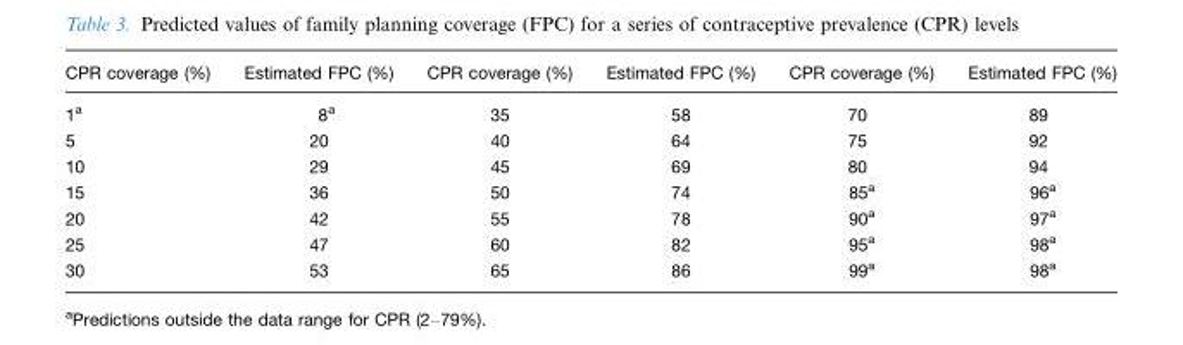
<table><thead><tr><td>CPR coverage (%)</td><td>Estimated FPC (%)</td><td>CPR coverage (%)</td><td>Estimated FPC (%)</td><td>CPR coverage (%)</td><td>Estimated FPC (%)</td></tr></thead><tbody><tr><td>1a</td><td>8a</td><td>35</td><td>58</td><td>70</td><td>89</td></tr><tr><td>5</td><td>20</td><td>40</td><td>64</td><td>75</td><td>92</td></tr><tr><td>10</td><td>29</td><td>45</td><td>69</td><td>80</td><td>94</td></tr><tr><td>15</td><td>36</td><td>50</td><td>74</td><td>85a</td><td>96a</td></tr><tr><td>20</td><td>42</td><td>55</td><td>78</td><td>90a</td><td>97a</td></tr><tr><td>25</td><td>47</td><td>60</td><td>82</td><td>95a</td><td>98a</td></tr><tr><td>30</td><td>53</td><td>65</td><td>86</td><td>99a</td><td>98a</td></tr></tbody></table>